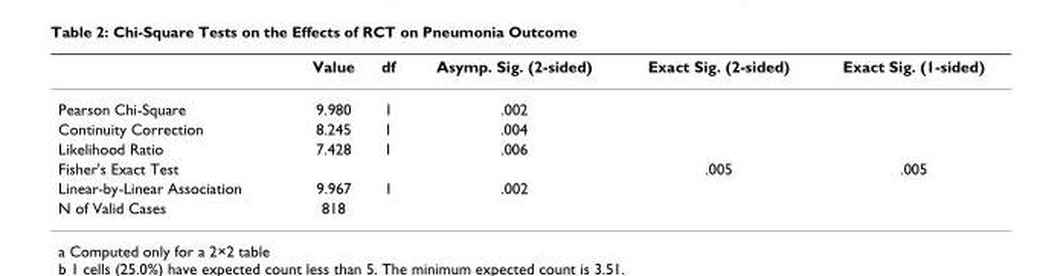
<table><thead><tr><td></td><td>Value</td><td>df</td><td>Asymp. Sig. (2-sided)</td><td>Exact Sig. (2-sided)</td><td>Exact Sig. (1-sided)</td></tr></thead><tbody><tr><td>Pearson Chi-Square</td><td>9.980</td><td>1</td><td>.002</td><td></td><td></td></tr><tr><td>Continuity Correction</td><td>8.245</td><td>1</td><td>.004</td><td></td><td></td></tr><tr><td>Likelihood Ratio</td><td>7.428</td><td>1</td><td>.006</td><td></td><td></td></tr><tr><td>Fisher&#x27;s Exact Test</td><td></td><td></td><td></td><td>.005</td><td>.005</td></tr><tr><td>Linear-by-Linear Association</td><td>9.967</td><td>1</td><td>.002</td><td></td><td></td></tr><tr><td>N of Valid Cases</td><td>818</td><td></td><td></td><td></td><td></td></tr></tbody></table>